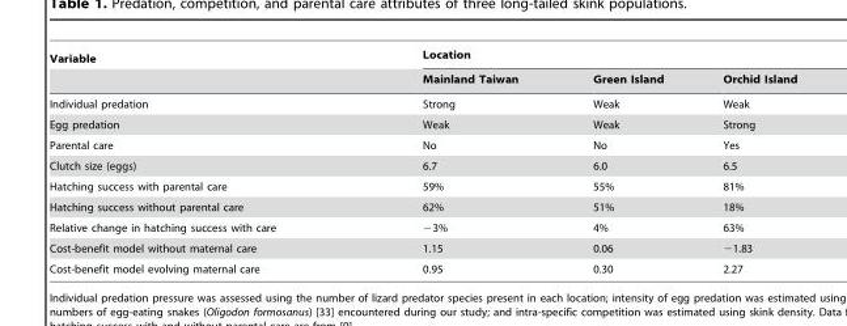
<table><thead><tr><td rowspan="2">Variable</td><td colspan="3">Location</td></tr><tr><td>Mainland Taiwan</td><td>Green Island</td><td>Orchid Island</td></tr></thead><tbody><tr><td>Individual predation</td><td>Strong</td><td>Weak</td><td>Weak</td></tr><tr><td>Egg predation</td><td>Weak</td><td>Weak</td><td>Strong</td></tr><tr><td>Parental care</td><td>No</td><td>No</td><td>Yes</td></tr><tr><td>Clutch size (eggs)</td><td>6.7</td><td>6.0</td><td>6.5</td></tr><tr><td>Hatching success with parental care</td><td>59%</td><td>55%</td><td>81%</td></tr><tr><td>Hatching success without parental care</td><td>62%</td><td>51%</td><td>18%</td></tr><tr><td>Relative change in hatching success with care</td><td>−3%</td><td>4%</td><td>63%</td></tr><tr><td>Cost-benefit model without maternal care</td><td>1.15</td><td>0.06</td><td>−1.83</td></tr><tr><td>Cost-benefit model evolving maternal care</td><td>0.95</td><td>0.30</td><td>2.27</td></tr></tbody></table>